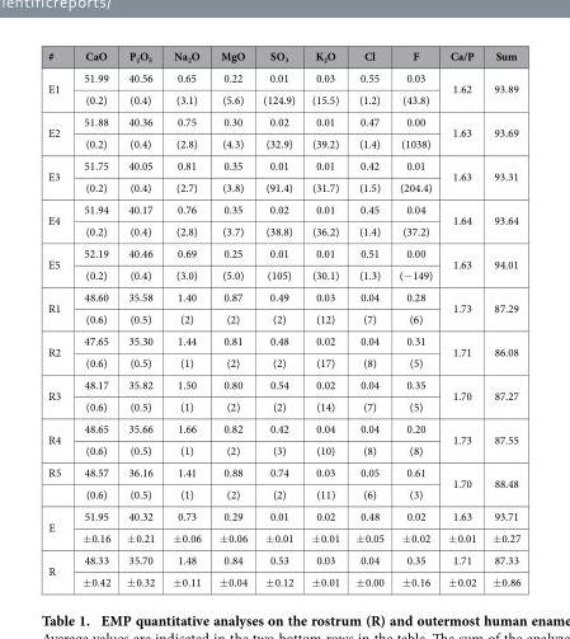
<table><thead><tr><td>#</td><td>CaO</td><td>P<sub>2</sub>O<sub>5</sub></td><td>Na<sub>2</sub>O</td><td>MgO</td><td>SO<sub>3</sub></td><td>K<sub>2</sub>O</td><td>Cl</td><td>F</td><td>Ca/P</td><td>Sum</td></tr></thead><tbody><tr><td rowspan="2">E1</td><td>51.99</td><td>40.56</td><td>0.65</td><td>0.22</td><td>0.01</td><td>0.03</td><td>0.55</td><td>0.03</td><td rowspan="2">1.62</td><td rowspan="2">93.89</td></tr><tr><td>(0.2)</td><td>(0.4)</td><td>(3.1)</td><td>(5.6)</td><td>(124.9)</td><td>(15.5)</td><td>(1.2)</td><td>(43.8)</td></tr><tr><td rowspan="2">E2</td><td>51.88</td><td>40.36</td><td>0.75</td><td>0.30</td><td>0.02</td><td>0.01</td><td>0.47</td><td>0.00</td><td rowspan="2">1.63</td><td rowspan="2">93.69</td></tr><tr><td>(0.2)</td><td>(0.4)</td><td>(2.8)</td><td>(4.3)</td><td>(32.9)</td><td>(39.2)</td><td>(1.4)</td><td>(1038)</td></tr><tr><td rowspan="2">E3</td><td>51.75</td><td>40.05</td><td>0.81</td><td>0.35</td><td>0.01</td><td>0.01</td><td>0.42</td><td>0.01</td><td rowspan="2">1.63</td><td rowspan="2">93.31</td></tr><tr><td>(0.2)</td><td>(0.4)</td><td>(2.7)</td><td>(3.8)</td><td>(91.4)</td><td>(31.7)</td><td>(1.5)</td><td>(204.4)</td></tr><tr><td rowspan="2">E4</td><td>51.94</td><td>40.17</td><td>0.76</td><td>0.35</td><td>0.02</td><td>0.01</td><td>0.45</td><td>0.04</td><td rowspan="2">1.64</td><td rowspan="2">93.64</td></tr><tr><td>(0.2)</td><td>(0.4)</td><td>(2.8)</td><td>(3.7)</td><td>(38.8)</td><td>(36.2)</td><td>(1.4)</td><td>(37.2)</td></tr><tr><td rowspan="2">E5</td><td>52.19</td><td>40.46</td><td>0.69</td><td>0.25</td><td>0.01</td><td>0.01</td><td>0.51</td><td>0.00</td><td rowspan="2">1.63</td><td rowspan="2">94.01</td></tr><tr><td>(0.2)</td><td>(0.4)</td><td>(3.0)</td><td>(5.0)</td><td>(105)</td><td>(30.1)</td><td>(1.3)</td><td>(− 149)</td></tr><tr><td rowspan="2">R1</td><td>48.60</td><td>35.58</td><td>1.40</td><td>0.87</td><td>0.49</td><td>0.03</td><td>0.04</td><td>0.28</td><td rowspan="2">1.73</td><td rowspan="2">87.29</td></tr><tr><td>(0.6)</td><td>(0.5)</td><td>(2)</td><td>(2)</td><td>(2)</td><td>(12)</td><td>(7)</td><td>(6)</td></tr><tr><td rowspan="2">R2</td><td>47.65</td><td>35.30</td><td>1.44</td><td>0.81</td><td>0.48</td><td>0.02</td><td>0.04</td><td>0.31</td><td rowspan="2">1.71</td><td rowspan="2">86.08</td></tr><tr><td>(0.6)</td><td>(0.5)</td><td>(1)</td><td>(2)</td><td>(2)</td><td>(17)</td><td>(8)</td><td>(5)</td></tr><tr><td rowspan="2">R3</td><td>48.17</td><td>35.82</td><td>1.50</td><td>0.80</td><td>0.54</td><td>0.02</td><td>0.04</td><td>0.35</td><td rowspan="2">1.70</td><td rowspan="2">87.27</td></tr><tr><td>(0.6)</td><td>(0.5)</td><td>(1)</td><td>(2)</td><td>(2)</td><td>(14)</td><td>(7)</td><td>(5)</td></tr><tr><td rowspan="2">R4</td><td>48.65</td><td>35.66</td><td>1.66</td><td>0.82</td><td>0.42</td><td>0.04</td><td>0.04</td><td>0.20</td><td rowspan="2">1.73</td><td rowspan="2">87.55</td></tr><tr><td>(0.6)</td><td>(0.5)</td><td>(1)</td><td>(2)</td><td>(3)</td><td>(10)</td><td>(8)</td><td>(8)</td></tr><tr><td rowspan="2">R5</td><td>48.57</td><td>36.16</td><td>1.41</td><td>0.88</td><td>0.74</td><td>0.03</td><td>0.05</td><td>0.61</td><td rowspan="2">1.70</td><td rowspan="2">88.48</td></tr><tr><td>(0.6)</td><td>(0.5)</td><td>(1)</td><td>(2)</td><td>(2)</td><td>(11)</td><td>(6)</td><td>(3)</td></tr><tr><td rowspan="2">E</td><td>51.95</td><td>40.32</td><td>0.73</td><td>0.29</td><td>0.01</td><td>0.02</td><td>0.48</td><td>0.02</td><td>1.63</td><td>93.71</td></tr><tr><td>± 0.16</td><td>± 0.21</td><td>± 0.06</td><td>± 0.06</td><td>± 0.01</td><td>± 0.01</td><td>± 0.05</td><td>± 0.02</td><td>± 0.01</td><td>± 0.27</td></tr><tr><td rowspan="2">R</td><td>48.33</td><td>35.70</td><td>1.48</td><td>0.84</td><td>0.53</td><td>0.03</td><td>0.04</td><td>0.35</td><td>1.71</td><td>87.33</td></tr><tr><td>± 0.42</td><td>± 0.32</td><td>± 0.11</td><td>± 0.04</td><td>± 0.12</td><td>± 0.01</td><td>± 0.00</td><td>± 0.16</td><td>± 0.02</td><td>± 0.86</td></tr></tbody></table>